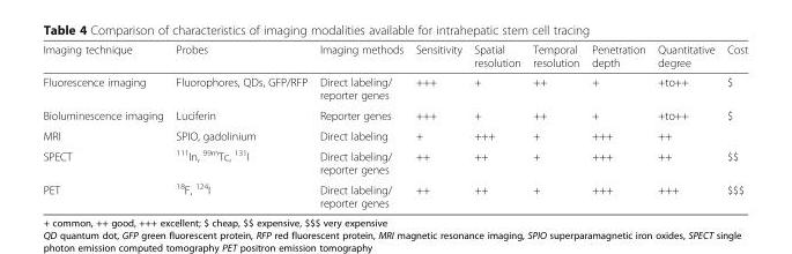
<table><thead><tr><td>Imaging technique</td><td>Probes</td><td>Imaging methods</td><td>Sensitivity</td><td>Spatial resolution</td><td>Temporal resolution</td><td>Penetration depth</td><td>Quantitative degree</td><td>Cost</td></tr></thead><tbody><tr><td>Fluorescence imaging</td><td>Fluorophores, QDs, GFP/RFP</td><td>Direct labeling/ reporter genes</td><td>+++</td><td>+</td><td>++</td><td>+</td><td>+to++</td><td>$</td></tr><tr><td>Bioluminescence imaging</td><td>Luciferin</td><td>Reporter genes</td><td>+++</td><td>+</td><td>++</td><td>+</td><td>+to++</td><td>$</td></tr><tr><td>MRI</td><td>SPIO, gadolinium</td><td>Direct labeling</td><td>+</td><td>+++</td><td>+</td><td>+++</td><td>++</td><td></td></tr><tr><td>SPECT</td><td><sup>111</sup>In, <sup>99m</sup>Tc, <sup>131</sup>I</td><td>Direct labeling/ reporter genes</td><td>++</td><td>++</td><td>+</td><td>+++</td><td>++</td><td>$$</td></tr><tr><td>PET</td><td><sup>18</sup>F, <sup>124</sup>I</td><td>Direct labeling/ reporter genes</td><td>++</td><td>++</td><td>+</td><td>+++</td><td>+++</td><td>$$$</td></tr></tbody></table>